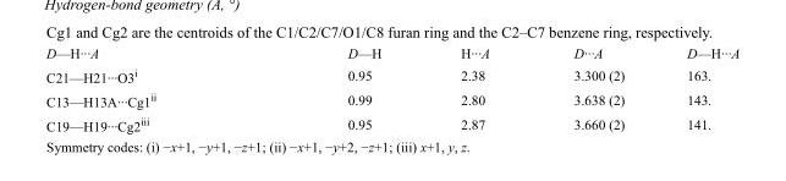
<table><tbody><tr><td>D—H···A</td><td>D—H</td><td>H···A</td><td>D···A</td><td>D—H···A</td></tr><tr><td>C21—H21···O3<sup>i</sup></td><td>0.95</td><td>2.38</td><td>3.300 (2)</td><td>163.</td></tr><tr><td>C13—H13A···Cg1<sup>ii</sup></td><td>0.99</td><td>2.80</td><td>3.638 (2)</td><td>143.</td></tr><tr><td>C19—H19···Cg2<sup>iii</sup></td><td>0.95</td><td>2.87</td><td>3.660 (2)</td><td>141.</td></tr></tbody></table>